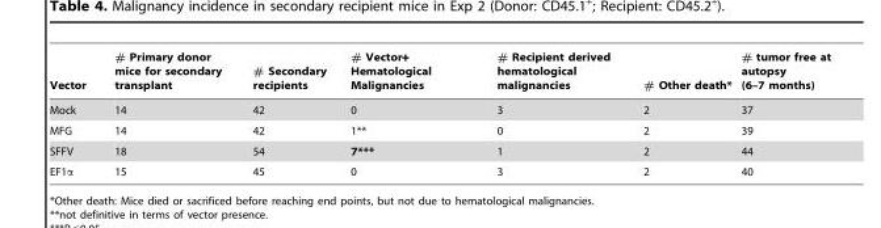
<table><thead><tr><td>Vector</td><td># Primary donor mice for secondary transplant</td><td># Secondary recipients</td><td># Vector+ Hematological Malignancies</td><td># Recipient derived hematological malignancies</td><td># Other death*</td><td># tumor free at autopsy (6–7 months)</td></tr></thead><tbody><tr><td>Mock</td><td>14</td><td>42</td><td>0</td><td>3</td><td>2</td><td>37</td></tr><tr><td>MFG</td><td>14</td><td>42</td><td>1**</td><td>0</td><td>2</td><td>39</td></tr><tr><td>SFFV</td><td>18</td><td>54</td><td>7***</td><td>1</td><td>2</td><td>44</td></tr><tr><td>EF1α</td><td>15</td><td>45</td><td>0</td><td>3</td><td>2</td><td>40</td></tr></tbody></table>